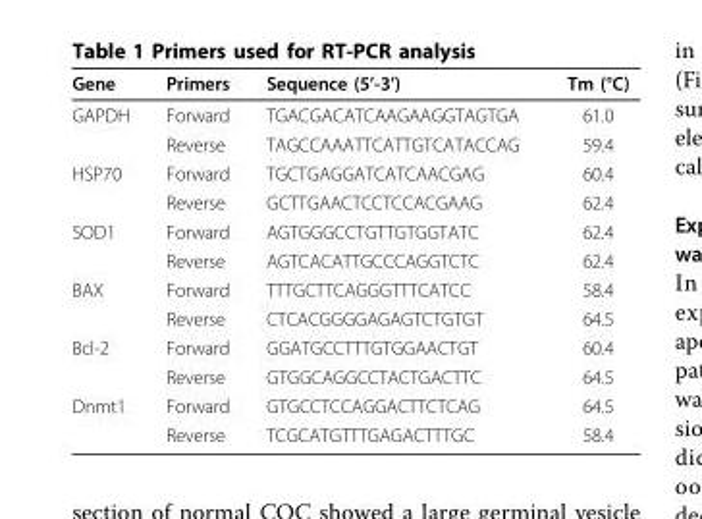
<table><thead><tr><td>Gene</td><td>Primers</td><td>Sequence (5’-3’)</td><td>Tm (°C)</td></tr></thead><tbody><tr><td rowspan="2">GAPDH</td><td>Forward</td><td>TGACGACATCAAGAAGGTAGTGA</td><td>61.0</td></tr><tr><td>Reverse</td><td>TAGCCAAATTCATTGTCATACCAG</td><td>59.4</td></tr><tr><td rowspan="2">HSP70</td><td>Forward</td><td>TGCTGAGGATCATCAACGAG</td><td>60.4</td></tr><tr><td>Reverse</td><td>GCTTGAACTCCTCCACGAAG</td><td>62.4</td></tr><tr><td rowspan="2">SOD1</td><td>Forward</td><td>AGTGGGCCTGTTGTGGTATC</td><td>62.4</td></tr><tr><td>Reverse</td><td>AGTCACATTGCCCAGGTCTC</td><td>62.4</td></tr><tr><td rowspan="2">BAX</td><td>Forward</td><td>TTTGCTTCAGGGTTTCATCC</td><td>58.4</td></tr><tr><td>Reverse</td><td>CTCACGGGGAGAGTCTGTGT</td><td>64.5</td></tr><tr><td rowspan="2">Bcl-2</td><td>Forward</td><td>GGATGCCTTTGTGGAACTGT</td><td>60.4</td></tr><tr><td>Reverse</td><td>GTGGCAGGCCTACTGACTTC</td><td>64.5</td></tr><tr><td rowspan="2">Dnmt1</td><td>Forward</td><td>GTGCCTCCAGGACTTCTCAG</td><td>64.5</td></tr><tr><td>Reverse</td><td>TCGCATGTTTGAGACTTTGC</td><td>58.4</td></tr></tbody></table>